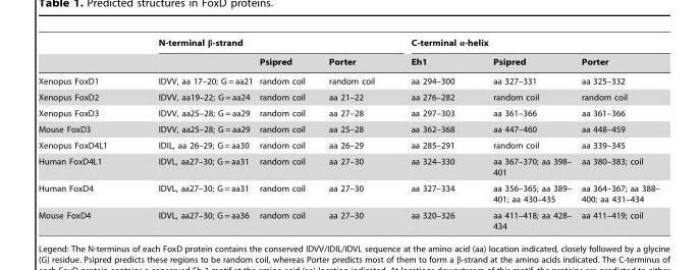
<table><thead><tr><td rowspan="2"></td><td colspan="3">N-terminal β-strand</td><td colspan="3">C-terminal α-helix</td></tr><tr><td></td><td>Psipred</td><td>Porter</td><td>Eh1</td><td>Psipred</td><td>Porter</td></tr></thead><tbody><tr><td>Xenopus FoxD1</td><td>IDVV, aa 17–20; G = aa21</td><td>random coil</td><td>random coil</td><td>aa 294–300</td><td>aa 327–331</td><td>aa 325–332</td></tr><tr><td>Xenopus FoxD2</td><td>IDVV, aa19–22; G = aa24</td><td>random coil</td><td>aa 21–22</td><td>aa 276–282</td><td>random coil</td><td>random coil</td></tr><tr><td>Xenopus FoxD3</td><td>IDVV, aa25–28; G = aa29</td><td>random coil</td><td>aa 27–28</td><td>aa 297–303</td><td>aa 361–366</td><td>aa 361–366</td></tr><tr><td>Mouse FoxD3</td><td>IDVV, aa25–28; G = aa29</td><td>random coil</td><td>aa 25–28</td><td>aa 362–368</td><td>aa 447–460</td><td>aa 448–459</td></tr><tr><td>Xenopus FoxD4L1</td><td>IDIL, aa 26–29; G = aa30</td><td>random coil</td><td>aa 26–29</td><td>aa 285–291</td><td>random coil</td><td>aa 339–345</td></tr><tr><td>Human FoxD4L1</td><td>IDVL, aa27–30; G = aa31</td><td>random coil</td><td>aa 27–30</td><td>aa 324–330</td><td>aa 367–370; aa 398– 401</td><td>aa 380–383; coil</td></tr><tr><td>Human FoxD4</td><td>IDVL, aa27–30; G = aa31</td><td>random coil</td><td>aa 27–30</td><td>aa 327–334</td><td>aa 356–365; aa 389– 401; aa 430–435</td><td>aa 364–367; aa 388– 400; aa 431–434</td></tr><tr><td>Mouse FoxD4</td><td>IDVL, aa27–30; G = aa36</td><td>random coil</td><td>aa 27–30</td><td>aa 320–326</td><td>aa 411–418; aa 428– 434</td><td>aa 411–419; coil</td></tr></tbody></table>